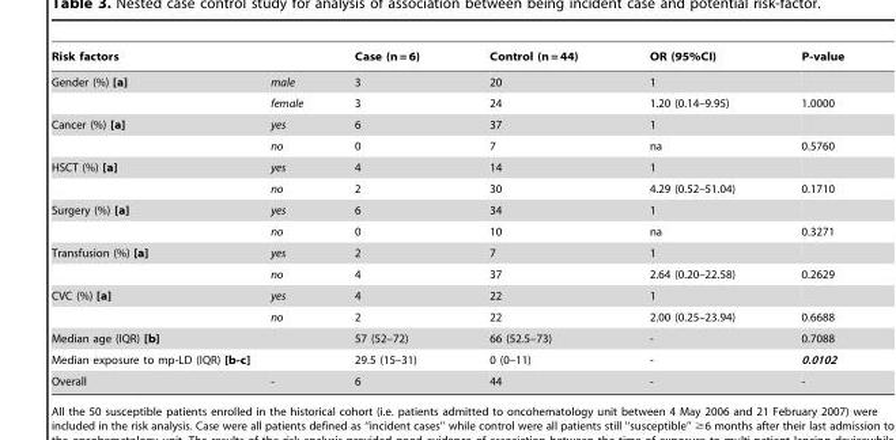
<table><thead><tr><td>Risk factors</td><td></td><td>Case (n = 6)</td><td>Control (n = 44)</td><td>OR (95%CI)</td><td>P-value</td></tr></thead><tbody><tr><td rowspan="2">Gender (%) [a]</td><td>male</td><td>3</td><td>20</td><td>1</td><td></td></tr><tr><td>female</td><td>3</td><td>24</td><td>1.20 (0.14–9.95)</td><td>1.0000</td></tr><tr><td rowspan="2">Cancer (%) [a]</td><td>yes</td><td>6</td><td>37</td><td>1</td><td></td></tr><tr><td>no</td><td>0</td><td>7</td><td>na</td><td>0.5760</td></tr><tr><td rowspan="2">HSCT (%) [a]</td><td>yes</td><td>4</td><td>14</td><td>1</td><td></td></tr><tr><td>no</td><td>2</td><td>30</td><td>4.29 (0.52–51.04)</td><td>0.1710</td></tr><tr><td rowspan="2">Surgery (%) [a]</td><td>yes</td><td>6</td><td>34</td><td>1</td><td></td></tr><tr><td>no</td><td>0</td><td>10</td><td>na</td><td>0.3271</td></tr><tr><td rowspan="2">Transfusion (%) [a]</td><td>yes</td><td>2</td><td>7</td><td>1</td><td></td></tr><tr><td>no</td><td>4</td><td>37</td><td>2.64 (0.20–22.58)</td><td>0.2629</td></tr><tr><td rowspan="2">CVC (%) [a]</td><td>yes</td><td>4</td><td>22</td><td>1</td><td></td></tr><tr><td>no</td><td>2</td><td>22</td><td>2.00 (0.25–23.94)</td><td>0.6688</td></tr><tr><td>Median age (IQR) [b]</td><td></td><td>57 (52–72)</td><td>66 (52.5–73)</td><td>-</td><td>0.7088</td></tr><tr><td>Median exposure to mp-LD (IQR) [b-c]</td><td></td><td>29.5 (15–31)</td><td>0 (0–11)</td><td>-</td><td>0.0102</td></tr><tr><td>Overall</td><td>-</td><td>6</td><td>44</td><td>-</td><td>-</td></tr></tbody></table>